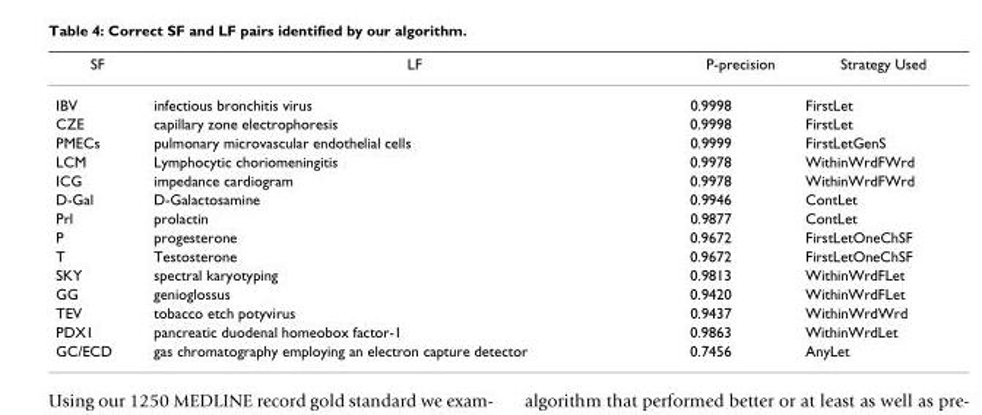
<table><thead><tr><td>SF</td><td>LF</td><td>P-precision</td><td>Strategy Used</td></tr></thead><tbody><tr><td>IBV</td><td>infectious bronchitis virus</td><td>0.9998</td><td>FirstLet</td></tr><tr><td>CZE</td><td>capillary zone electrophoresis</td><td>0.9998</td><td>FirstLet</td></tr><tr><td>PMECs</td><td>pulmonary microvascular endothelial cells</td><td>0.9999</td><td>FirstLetGenS</td></tr><tr><td>LCM</td><td>Lymphocytic choriomeningitis</td><td>0.9978</td><td>WithinWrdFWrd</td></tr><tr><td>ICG</td><td>impedance cardiogram</td><td>0.9978</td><td>WithinWrdFWrd</td></tr><tr><td>D-Gal</td><td>D-Galactosamine</td><td>0.9946</td><td>ContLet</td></tr><tr><td>Prl</td><td>prolactin</td><td>0.9877</td><td>ContLet</td></tr><tr><td>P</td><td>progesterone</td><td>0.9672</td><td>FirstLetOneChSF</td></tr><tr><td>T</td><td>Testosterone</td><td>0.9672</td><td>FirstLetOneChSF</td></tr><tr><td>SKY</td><td>spectral karyotyping</td><td>0.9813</td><td>WithinWrdFLet</td></tr><tr><td>GG</td><td>genioglossus</td><td>0.9420</td><td>WithinWrdFLet</td></tr><tr><td>TEV</td><td>tobacco etch potyvirus</td><td>0.9437</td><td>WithinWrdWrd</td></tr><tr><td>PDX1</td><td>pancreatic duodenal homeobox factor-1</td><td>0.9863</td><td>WithinWrdLet</td></tr><tr><td>GC/ECD</td><td>gas chromatography employing an electron capture detector</td><td>0.7456</td><td>AnyLet</td></tr></tbody></table>